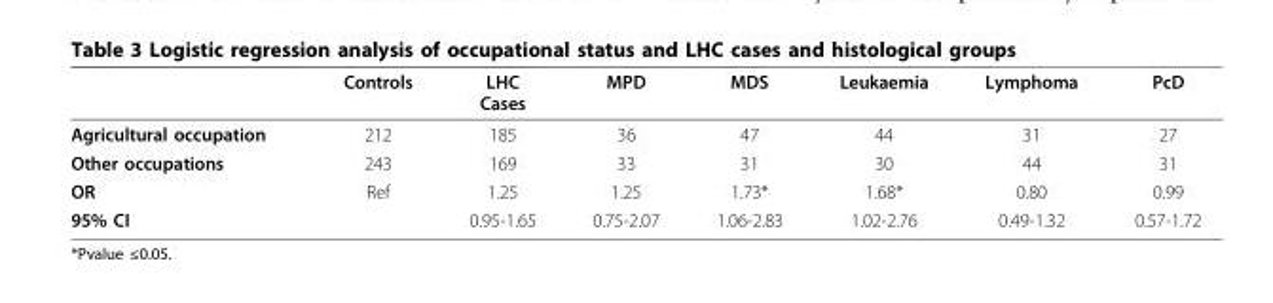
<table><thead><tr><td></td><td>Controls</td><td>LHC Cases</td><td>MPD</td><td>MDS</td><td>Leukaemia</td><td>Lymphoma</td><td>PcD</td></tr></thead><tbody><tr><td>Agricultural occupation</td><td>212</td><td>185</td><td>36</td><td>47</td><td>44</td><td>31</td><td>27</td></tr><tr><td>Other occupations</td><td>243</td><td>169</td><td>33</td><td>31</td><td>30</td><td>44</td><td>31</td></tr><tr><td>OR</td><td>Ref</td><td>1.25</td><td>1.25</td><td>1.73*</td><td>1.68*</td><td>0.80</td><td>0.99</td></tr><tr><td>95% CI</td><td></td><td>0.95-1.65</td><td>0.75-2.07</td><td>1.06-2.83</td><td>1.02-2.76</td><td>0.49-1.32</td><td>0.57-1.72</td></tr></tbody></table>